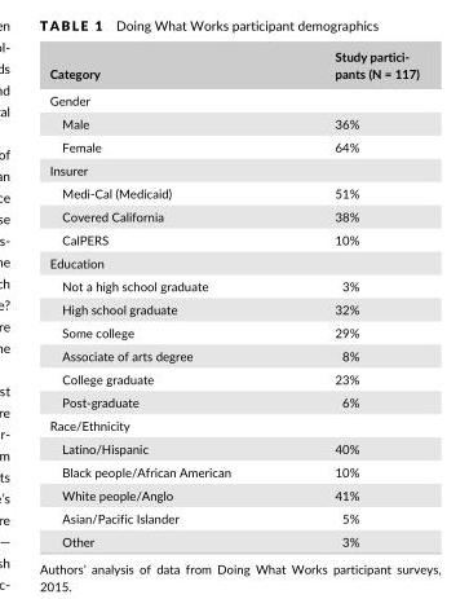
<table><thead><tr><td>Category</td><td>Study partici- pants (N = 117)</td></tr></thead><tbody><tr><td colspan="2">Gender</td></tr><tr><td>Male</td><td>36%</td></tr><tr><td>Female</td><td>64%</td></tr><tr><td colspan="2">Insurer</td></tr><tr><td>Medi- Cal (Medicaid)</td><td>51%</td></tr><tr><td>Covered California</td><td>38%</td></tr><tr><td>CalPERS</td><td>10%</td></tr><tr><td colspan="2">Education</td></tr><tr><td>Not a high school graduate</td><td>3%</td></tr><tr><td>High school graduate</td><td>32%</td></tr><tr><td>Some college</td><td>29%</td></tr><tr><td>Associate of arts degree</td><td>8%</td></tr><tr><td>College graduate</td><td>23%</td></tr><tr><td>Post- graduate</td><td>6%</td></tr><tr><td colspan="2">Race/Ethnicity</td></tr><tr><td>Latino/Hispanic</td><td>40%</td></tr><tr><td>Black people/African American</td><td>10%</td></tr><tr><td>White people/Anglo</td><td>41%</td></tr><tr><td>Asian/Pacific Islander</td><td>5%</td></tr><tr><td>Other</td><td>3%</td></tr></tbody></table>